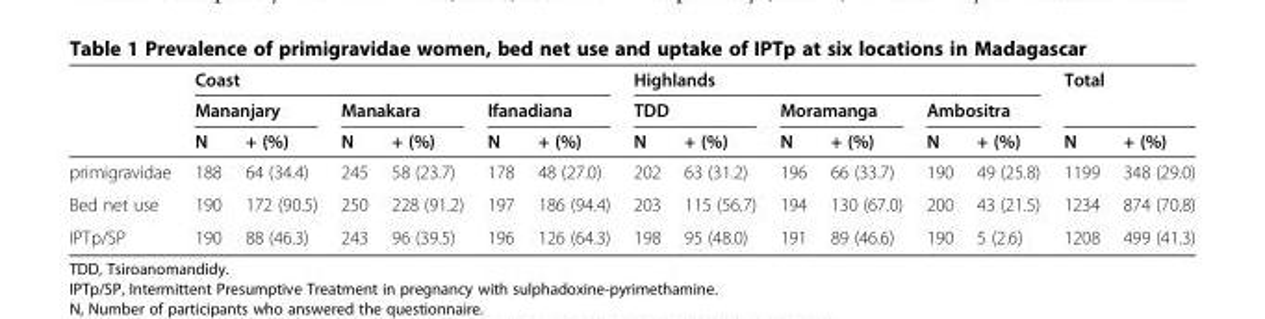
<table><thead><tr><td rowspan="3"></td><td colspan="6">Coast</td><td colspan="6">Highlands</td><td rowspan="2" colspan="2">Total</td></tr><tr><td colspan="2">Mananjary</td><td colspan="2">Manakara</td><td colspan="2">Ifanadiana</td><td colspan="2">TDD</td><td colspan="2">Moramanga</td><td colspan="2">Ambositra</td></tr><tr><td>N</td><td>+ (%)</td><td>N</td><td>+ (%)</td><td>N</td><td>+ (%)</td><td>N</td><td>+ (%)</td><td>N</td><td>+ (%)</td><td>N</td><td>+ (%)</td><td>N</td><td>+ (%)</td></tr></thead><tbody><tr><td>primigravidae</td><td>188</td><td>64 (34.4)</td><td>245</td><td>58 (23.7)</td><td>178</td><td>48 (27.0)</td><td>202</td><td>63 (31.2)</td><td>196</td><td>66 (33.7)</td><td>190</td><td>49 (25.8)</td><td>1199</td><td>348 (29.0)</td></tr><tr><td>Bed net use</td><td>190</td><td>172 (90.5)</td><td>250</td><td>228 (91.2)</td><td>197</td><td>186 (94.4)</td><td>203</td><td>115 (56.7)</td><td>194</td><td>130 (67.0)</td><td>200</td><td>43 (21.5)</td><td>1234</td><td>874 (70.8)</td></tr><tr><td>IPTp/SP</td><td>190</td><td>88 (46.3)</td><td>243</td><td>96 (39.5)</td><td>196</td><td>126 (64.3)</td><td>198</td><td>95 (48.0)</td><td>191</td><td>89 (46.6)</td><td>190</td><td>5 (2.6)</td><td>1208</td><td>499 (41.3)</td></tr></tbody></table>